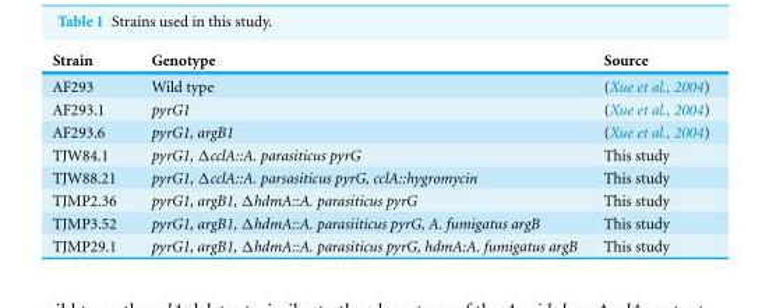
<table><thead><tr><td>Strain</td><td>Genotype</td><td>Source</td></tr></thead><tbody><tr><td>AF293</td><td>Wild type</td><td>(Xue et al., 2004)</td></tr><tr><td>AF293.1</td><td>pyrG1</td><td>(Xue et al., 2004)</td></tr><tr><td>AF293.6</td><td>pyrG1, argB1</td><td>(Xue et al., 2004)</td></tr><tr><td>TJW84.1</td><td>pyrG1, ΔcclA::A. parasiticus pyrG</td><td>This study</td></tr><tr><td>TJW88.21</td><td>pyrG1, ΔcclA::A. parsasiticus pyrG, cclA::hygromycin</td><td>This study</td></tr><tr><td>TJMP2.36</td><td>pyrG1, argB1, ΔhdmA::A. parasiticus pyrG</td><td>This study</td></tr><tr><td>TJMP3.52</td><td>pyrG1, argB1, ΔhdmA::A. parasiiticus pyrG, A. fumigatus argB</td><td>This study</td></tr><tr><td>TJMP29.1</td><td>pyrG1, argB1, ΔhdmA::A. parasiticus pyrG, hdmA:A. fumigatus argB</td><td>This study</td></tr></tbody></table>